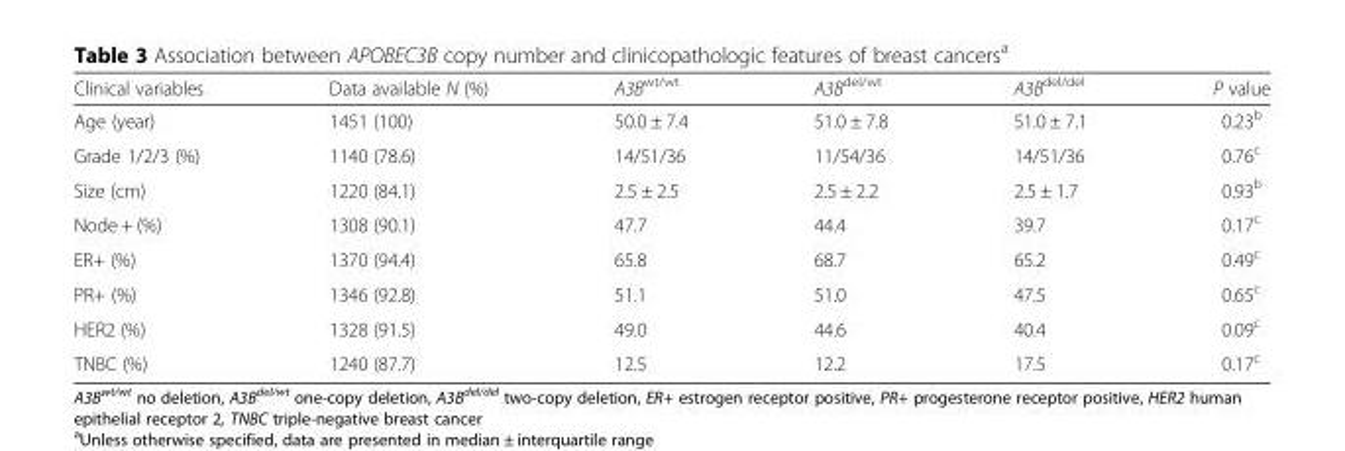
<table><thead><tr><td>Clinical variables</td><td>Data available N (%)</td><td>A3B<sup>wt/wt</sup></td><td>A3B<sup>del/wt</sup></td><td>A3B<sup>del/del</sup></td><td>P value</td></tr></thead><tbody><tr><td>Age (year)</td><td>1451 (100)</td><td>50.0 ± 7.4</td><td>51.0 ± 7.8</td><td>51.0 ± 7.1</td><td>0.23<sup>b</sup></td></tr><tr><td>Grade 1/2/3 (%)</td><td>1140 (78.6)</td><td>14/51/36</td><td>11/54/36</td><td>14/51/36</td><td>0.76<sup>c</sup></td></tr><tr><td>Size (cm)</td><td>1220 (84.1)</td><td>2.5 ± 2.5</td><td>2.5 ± 2.2</td><td>2.5 ± 1.7</td><td>0.93<sup>b</sup></td></tr><tr><td>Node + (%)</td><td>1308 (90.1)</td><td>47.7</td><td>44.4</td><td>39.7</td><td>0.17<sup>c</sup></td></tr><tr><td>ER+ (%)</td><td>1370 (94.4)</td><td>65.8</td><td>68.7</td><td>65.2</td><td>0.49<sup>c</sup></td></tr><tr><td>PR+ (%)</td><td>1346 (92.8)</td><td>51.1</td><td>51.0</td><td>47.5</td><td>0.65<sup>c</sup></td></tr><tr><td>HER2 (%)</td><td>1328 (91.5)</td><td>49.0</td><td>44.6</td><td>40.4</td><td>0.09<sup>c</sup></td></tr><tr><td>TNBC (%)</td><td>1240 (87.7)</td><td>12.5</td><td>12.2</td><td>17.5</td><td>0.17<sup>c</sup></td></tr></tbody></table>